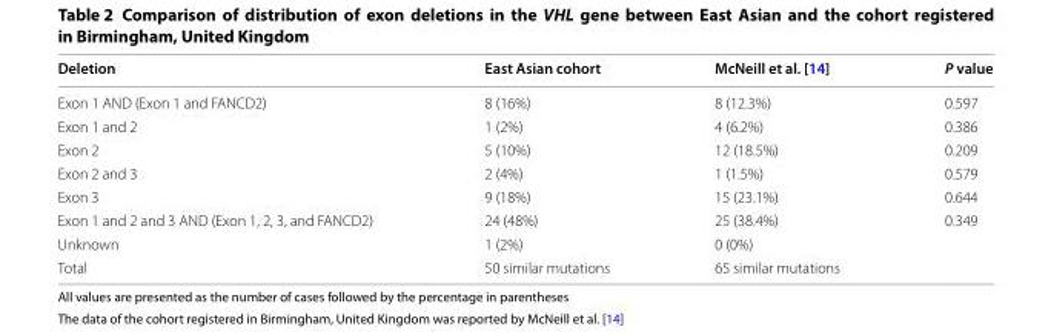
<table><thead><tr><td>Deletion</td><td>East Asian cohort</td><td>McNeill et al. [14]</td><td>P value</td></tr></thead><tbody><tr><td>Exon 1 AND (Exon 1 and FANCD2)</td><td>8 (16%)</td><td>8 (12.3%)</td><td>0.597</td></tr><tr><td>Exon 1 and 2</td><td>1 (2%)</td><td>4 (6.2%)</td><td>0.386</td></tr><tr><td>Exon 2</td><td>5 (10%)</td><td>12 (18.5%)</td><td>0.209</td></tr><tr><td>Exon 2 and 3</td><td>2 (4%)</td><td>1 (1.5%)</td><td>0.579</td></tr><tr><td>Exon 3</td><td>9 (18%)</td><td>15 (23.1%)</td><td>0.644</td></tr><tr><td>Exon 1 and 2 and 3 AND (Exon 1, 2, 3, and FANCD2)</td><td>24 (48%)</td><td>25 (38.4%)</td><td>0.349</td></tr><tr><td>Unknown</td><td>1 (2%)</td><td>0 (0%)</td><td></td></tr><tr><td>Total</td><td>50 similar mutations</td><td>65 similar mutations</td><td></td></tr></tbody></table>